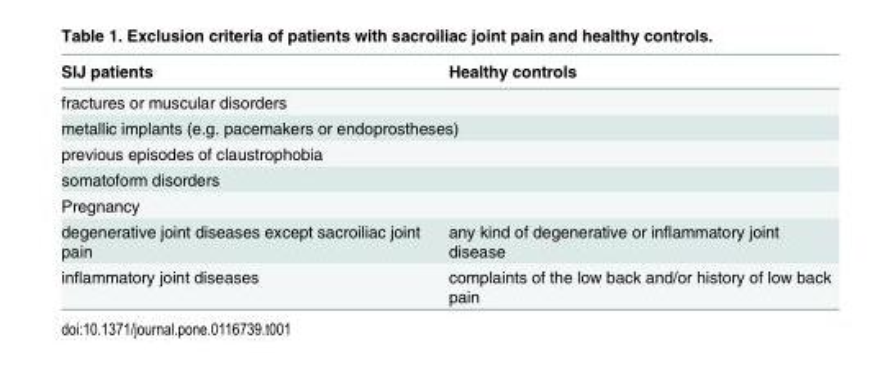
<table><thead><tr><td>SIJ patients</td><td>Healthy controls</td></tr></thead><tbody><tr><td colspan="2">fractures or muscular disorders</td></tr><tr><td colspan="2">metallic implants (e.g. pacemakers or endoprostheses)</td></tr><tr><td colspan="2">previous episodes of claustrophobia</td></tr><tr><td colspan="2">somatoform disorders</td></tr><tr><td colspan="2">Pregnancy</td></tr><tr><td>degenerative joint diseases except sacroiliac joint pain</td><td>any kind of degenerative or inflammatory joint disease</td></tr><tr><td>inflammatory joint diseases</td><td>complaints of the low back and/or history of low back pain</td></tr></tbody></table>